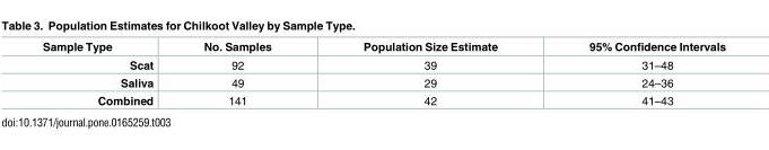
<table><thead><tr><td>Sample Type</td><td>No. Samples</td><td>Population Size Estimate</td><td>95% Confidence Intervals</td></tr></thead><tbody><tr><td>Scat</td><td>92</td><td>39</td><td>31–48</td></tr><tr><td>Saliva</td><td>49</td><td>29</td><td>24–36</td></tr><tr><td>Combined</td><td>141</td><td>42</td><td>41–43</td></tr></tbody></table>